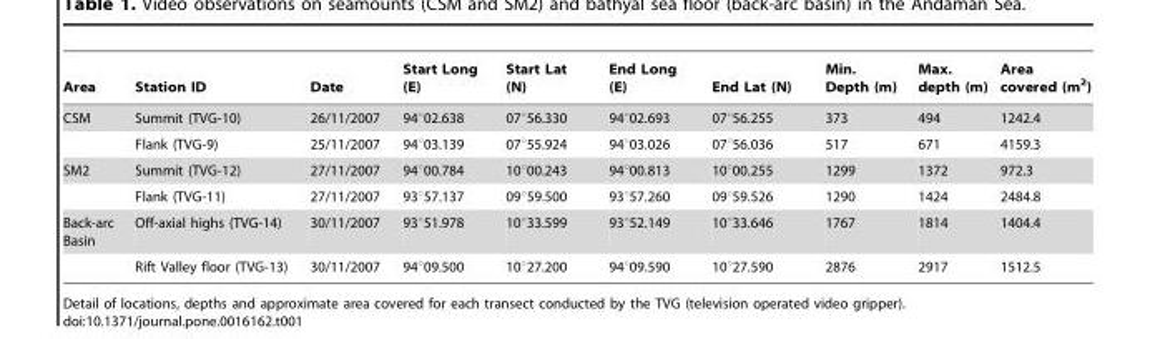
<table><thead><tr><td>Area</td><td>Station ID</td><td>Date</td><td>Start Long (E)</td><td>Start Lat (N)</td><td>End Long (E)</td><td>End Lat (N)</td><td>Min. Depth (m)</td><td>Max. depth (m)</td><td>Area covered (m<sup>2</sup>)</td></tr></thead><tbody><tr><td rowspan="2">CSM</td><td>Summit (TVG-10)</td><td>26/11/2007</td><td>94°02.638</td><td>07°56.330</td><td>94°02.693</td><td>07°56.255</td><td>373</td><td>494</td><td>1242.4</td></tr><tr><td>Flank (TVG-9)</td><td>25/11/2007</td><td>94°03.139</td><td>07°55.924</td><td>94°03.026</td><td>07°56.036</td><td>517</td><td>671</td><td>4159.3</td></tr><tr><td rowspan="2">SM2</td><td>Summit (TVG-12)</td><td>27/11/2007</td><td>94°00.784</td><td>10°00.243</td><td>94°00.813</td><td>10°00.255</td><td>1299</td><td>1372</td><td>972.3</td></tr><tr><td>Flank (TVG-11)</td><td>27/11/2007</td><td>93°57.137</td><td>09°59.500</td><td>93°57.260</td><td>09°59.526</td><td>1290</td><td>1424</td><td>2484.8</td></tr><tr><td rowspan="2">Back-arc Basin</td><td>Off-axial highs (TVG-14)</td><td>30/11/2007</td><td>93°51.978</td><td>10°33.599</td><td>93°52.149</td><td>10°33.646</td><td>1767</td><td>1814</td><td>1404.4</td></tr><tr><td>Rift Valley floor (TVG-13)</td><td>30/11/2007</td><td>94°09.500</td><td>10°27.200</td><td>94°09.590</td><td>10°27.590</td><td>2876</td><td>2917</td><td>1512.5</td></tr></tbody></table>